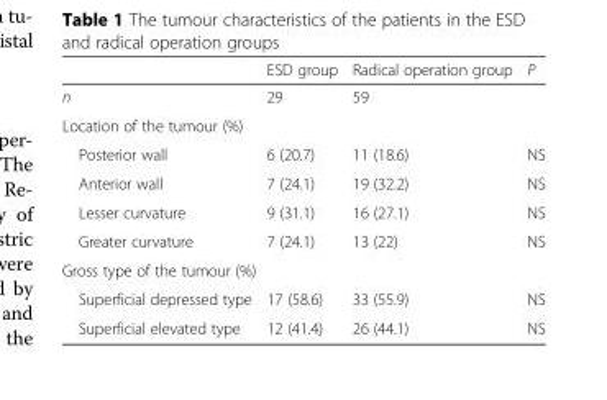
<table><thead><tr><td></td><td>ESD group</td><td>Radical operation group</td><td>P</td></tr></thead><tbody><tr><td>n</td><td>29</td><td>59</td><td></td></tr><tr><td colspan="4">Location of the tumour (%)</td></tr><tr><td>Posterior wall</td><td>6 (20.7)</td><td>11 (18.6)</td><td>NS</td></tr><tr><td>Anterior wall</td><td>7 (24.1)</td><td>19 (32.2)</td><td>NS</td></tr><tr><td>Lesser curvature</td><td>9 (31.1)</td><td>16 (27.1)</td><td>NS</td></tr><tr><td>Greater curvature</td><td>7 (24.1)</td><td>13 (22)</td><td>NS</td></tr><tr><td colspan="4">Gross type of the tumour (%)</td></tr><tr><td>Superficial depressed type</td><td>17 (58.6)</td><td>33 (55.9)</td><td>NS</td></tr><tr><td>Superficial elevated type</td><td>12 (41.4)</td><td>26 (44.1)</td><td>NS</td></tr></tbody></table>